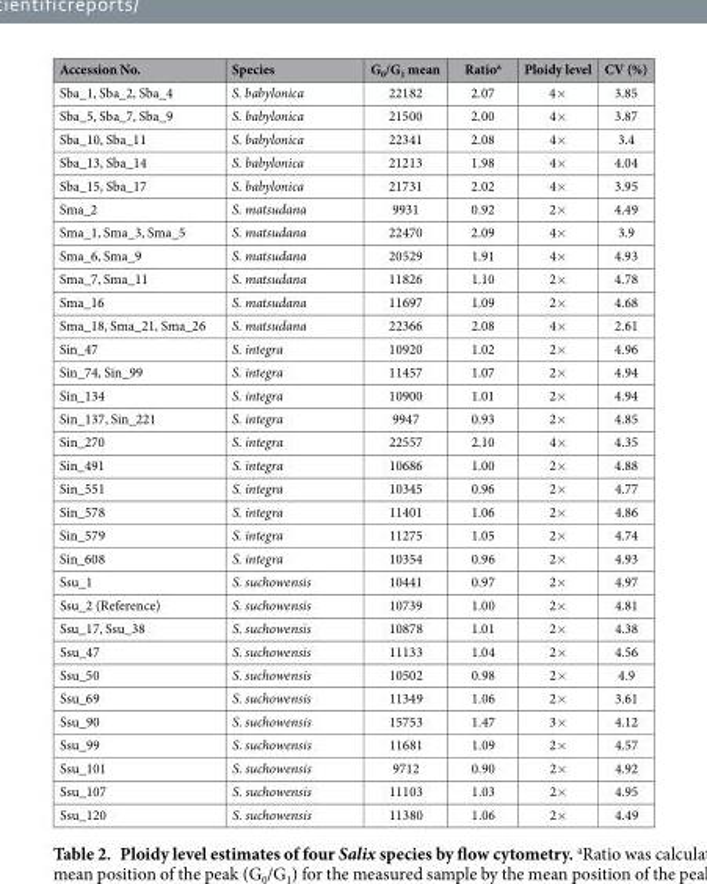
<table><thead><tr><td>Accession No.</td><td>Species</td><td>G<sub>0</sub>/G<sub>1</sub> mean</td><td>Ratio<sup>a</sup></td><td>Ploidy level</td><td>CV (%)</td></tr></thead><tbody><tr><td>Sba_1, Sba_2, Sba_4</td><td>S. babylonica</td><td>22182</td><td>2.07</td><td>4×</td><td>3.85</td></tr><tr><td>Sba_5, Sba_7, Sba_9</td><td>S. babylonica</td><td>21500</td><td>2.00</td><td>4×</td><td>3.87</td></tr><tr><td>Sba_10, Sba_11</td><td>S. babylonica</td><td>22341</td><td>2.08</td><td>4×</td><td>3.4</td></tr><tr><td>Sba_13, Sba_14</td><td>S. babylonica</td><td>21213</td><td>1.98</td><td>4×</td><td>4.04</td></tr><tr><td>Sba_15, Sba_17</td><td>S. babylonica</td><td>21731</td><td>2.02</td><td>4×</td><td>3.95</td></tr><tr><td>Sma_2</td><td>S. matsudana</td><td>9931</td><td>0.92</td><td>2×</td><td>4.49</td></tr><tr><td>Sma_1, Sma_3, Sma_5</td><td>S. matsudana</td><td>22470</td><td>2.09</td><td>4×</td><td>3.9</td></tr><tr><td>Sma_6, Sma_9</td><td>S. matsudana</td><td>20529</td><td>1.91</td><td>4×</td><td>4.93</td></tr><tr><td>Sma_7, Sma_11</td><td>S. matsudana</td><td>11826</td><td>1.10</td><td>2×</td><td>4.78</td></tr><tr><td>Sma_16</td><td>S. matsudana</td><td>11697</td><td>1.09</td><td>2×</td><td>4.68</td></tr><tr><td>Sma_18, Sma_21, Sma_26</td><td>S. matsudana</td><td>22366</td><td>2.08</td><td>4×</td><td>2.61</td></tr><tr><td>Sin_47</td><td>S. integra</td><td>10920</td><td>1.02</td><td>2×</td><td>4.96</td></tr><tr><td>Sin_74, Sin_99</td><td>S. integra</td><td>11457</td><td>1.07</td><td>2×</td><td>4.94</td></tr><tr><td>Sin_134</td><td>S. integra</td><td>10900</td><td>1.01</td><td>2×</td><td>4.94</td></tr><tr><td>Sin_137, Sin_221</td><td>S. integra</td><td>9947</td><td>0.93</td><td>2×</td><td>4.85</td></tr><tr><td>Sin_270</td><td>S. integra</td><td>22557</td><td>2.10</td><td>4×</td><td>4.35</td></tr><tr><td>Sin_491</td><td>S. integra</td><td>10686</td><td>1.00</td><td>2×</td><td>4.88</td></tr><tr><td>Sin_551</td><td>S. integra</td><td>10345</td><td>0.96</td><td>2×</td><td>4.77</td></tr><tr><td>Sin_578</td><td>S. integra</td><td>11401</td><td>1.06</td><td>2×</td><td>4.86</td></tr><tr><td>Sin_579</td><td>S. integra</td><td>11275</td><td>1.05</td><td>2×</td><td>4.74</td></tr><tr><td>Sin_608</td><td>S. integra</td><td>10354</td><td>0.96</td><td>2×</td><td>4.93</td></tr><tr><td>Ssu_1</td><td>S. suchowensis</td><td>10441</td><td>0.97</td><td>2×</td><td>4.97</td></tr><tr><td>Ssu_2 (Reference)</td><td>S. suchowensis</td><td>10739</td><td>1.00</td><td>2×</td><td>4.81</td></tr><tr><td>Ssu_17, Ssu_38</td><td>S. suchowensis</td><td>10878</td><td>1.01</td><td>2×</td><td>4.38</td></tr><tr><td>Ssu_47</td><td>S. suchowensis</td><td>11133</td><td>1.04</td><td>2×</td><td>4.56</td></tr><tr><td>Ssu_50</td><td>S. suchowensis</td><td>10502</td><td>0.98</td><td>2×</td><td>4.9</td></tr><tr><td>Ssu_69</td><td>S. suchowensis</td><td>11349</td><td>1.06</td><td>2×</td><td>3.61</td></tr><tr><td>Ssu_90</td><td>S. suchowensis</td><td>15753</td><td>1.47</td><td>3×</td><td>4.12</td></tr><tr><td>Ssu_99</td><td>S. suchowensis</td><td>11681</td><td>1.09</td><td>2×</td><td>4.57</td></tr><tr><td>Ssu_101</td><td>S. suchowensis</td><td>9712</td><td>0.90</td><td>2×</td><td>4.92</td></tr><tr><td>Ssu_107</td><td>S. suchowensis</td><td>11103</td><td>1.03</td><td>2×</td><td>4.95</td></tr><tr><td>Ssu_120</td><td>S. suchowensis</td><td>11380</td><td>1.06</td><td>2×</td><td>4.49</td></tr></tbody></table>